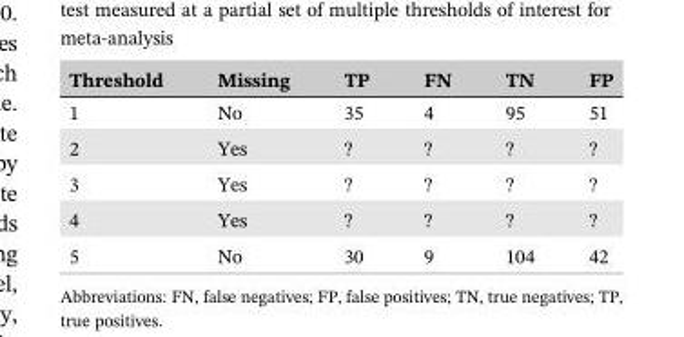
<table><thead><tr><td>Threshold</td><td>Missing</td><td>TP</td><td>FN</td><td>TN</td><td>FP</td></tr></thead><tbody><tr><td>1</td><td>No</td><td>35</td><td>4</td><td>95</td><td>51</td></tr><tr><td>2</td><td>Yes</td><td>?</td><td>?</td><td>?</td><td>?</td></tr><tr><td>3</td><td>Yes</td><td>?</td><td>?</td><td>?</td><td>?</td></tr><tr><td>4</td><td>Yes</td><td>?</td><td>?</td><td>?</td><td>?</td></tr><tr><td>5</td><td>No</td><td>30</td><td>9</td><td>104</td><td>42</td></tr></tbody></table>